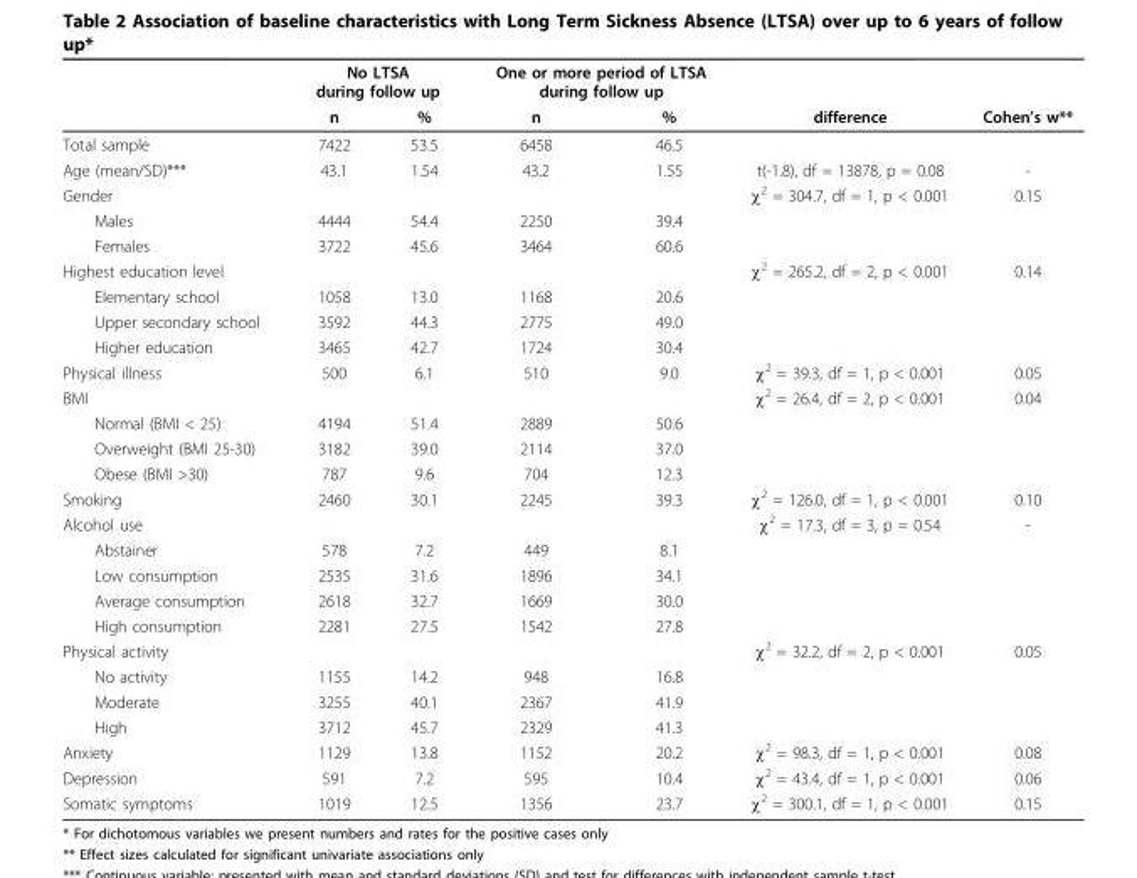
<table><thead><tr><td rowspan="2"></td><td colspan="2">No LTSA during follow up</td><td colspan="2">One or more period of LTSA during follow up</td><td rowspan="2">difference</td><td rowspan="2">Cohen’s w**</td></tr><tr><td>n</td><td>%</td><td>n</td><td>%</td></tr></thead><tbody><tr><td>Total sample</td><td>7422</td><td>53.5</td><td>6458</td><td>46.5</td><td></td><td></td></tr><tr><td>Age (mean/SD)***</td><td>43.1</td><td>1.54</td><td>43.2</td><td>1.55</td><td>t(-1.8), df = 13878, p = 0.08</td><td>-</td></tr><tr><td>Gender</td><td></td><td></td><td></td><td></td><td>χ<sup>2</sup> = 304.7, df = 1, p &lt; 0.001</td><td>0.15</td></tr><tr><td>Males</td><td>4444</td><td>54.4</td><td>2250</td><td>39.4</td><td></td><td></td></tr><tr><td>Females</td><td>3722</td><td>45.6</td><td>3464</td><td>60.6</td><td></td><td></td></tr><tr><td>Highest education level</td><td></td><td></td><td></td><td></td><td>χ<sup>2</sup> = 265.2, df = 2, p &lt; 0.001</td><td>0.14</td></tr><tr><td>Elementary school</td><td>1058</td><td>13.0</td><td>1168</td><td>20.6</td><td></td><td></td></tr><tr><td>Upper secondary school</td><td>3592</td><td>44.3</td><td>2775</td><td>49.0</td><td></td><td></td></tr><tr><td>Higher education</td><td>3465</td><td>42.7</td><td>1724</td><td>30.4</td><td></td><td></td></tr><tr><td>Physical illness</td><td>500</td><td>6.1</td><td>510</td><td>9.0</td><td>χ<sup>2</sup> = 39.3, df = 1, p &lt; 0.001</td><td>0.05</td></tr><tr><td>BMI</td><td></td><td></td><td></td><td></td><td>χ<sup>2</sup> = 26.4, df = 2, p &lt; 0.001</td><td>0.04</td></tr><tr><td>Normal (BMI &lt; 25)</td><td>4194</td><td>51.4</td><td>2889</td><td>50.6</td><td></td><td></td></tr><tr><td>Overweight (BMI 25-30)</td><td>3182</td><td>39.0</td><td>2114</td><td>37.0</td><td></td><td></td></tr><tr><td>Obese (BMI &gt;30)</td><td>787</td><td>9.6</td><td>704</td><td>12.3</td><td></td><td></td></tr><tr><td>Smoking</td><td>2460</td><td>30.1</td><td>2245</td><td>39.3</td><td>χ<sup>2</sup> = 126.0, df = 1, p &lt; 0.001</td><td>0.10</td></tr><tr><td>Alcohol use</td><td></td><td></td><td></td><td></td><td>χ<sup>2</sup> = 17.3, df = 3, p = 0.54</td><td>-</td></tr><tr><td>Abstainer</td><td>578</td><td>7.2</td><td>449</td><td>8.1</td><td></td><td></td></tr><tr><td>Low consumption</td><td>2535</td><td>31.6</td><td>1896</td><td>34.1</td><td></td><td></td></tr><tr><td>Average consumption</td><td>2618</td><td>32.7</td><td>1669</td><td>30.0</td><td></td><td></td></tr><tr><td>High consumption</td><td>2281</td><td>27.5</td><td>1542</td><td>27.8</td><td></td><td></td></tr><tr><td>Physical activity</td><td></td><td></td><td></td><td></td><td>χ<sup>2</sup> = 32.2, df = 2, p &lt; 0.001</td><td>0.05</td></tr><tr><td>No activity</td><td>1155</td><td>14.2</td><td>948</td><td>16.8</td><td></td><td></td></tr><tr><td>Moderate</td><td>3255</td><td>40.1</td><td>2367</td><td>41.9</td><td></td><td></td></tr><tr><td>High</td><td>3712</td><td>45.7</td><td>2329</td><td>41.3</td><td></td><td></td></tr><tr><td>Anxiety</td><td>1129</td><td>13.8</td><td>1152</td><td>20.2</td><td>χ<sup>2</sup> = 98.3, df = 1, p &lt; 0.001</td><td>0.08</td></tr><tr><td>Depression</td><td>591</td><td>7.2</td><td>595</td><td>10.4</td><td>χ<sup>2</sup> = 43.4, df = 1, p &lt; 0.001</td><td>0.06</td></tr><tr><td>Somatic symptoms</td><td>1019</td><td>12.5</td><td>1356</td><td>23.7</td><td>χ<sup>2</sup> = 300.1, df = 1, p &lt; 0.001</td><td>0.15</td></tr></tbody></table>